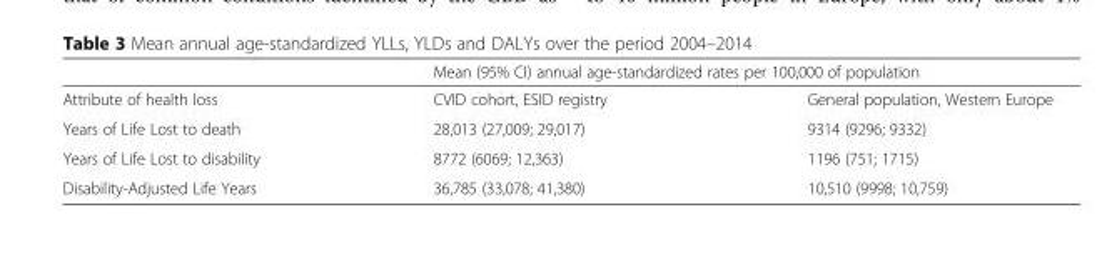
<table><thead><tr><td rowspan="2">Attribute of health loss</td><td colspan="2">Mean (95% CI) annual age-standardized rates per 100,000 of population</td></tr><tr><td>CVID cohort, ESID registry</td><td>General population, Western Europe</td></tr></thead><tbody><tr><td>Years of Life Lost to death</td><td>28,013 (27,009; 29,017)</td><td>9314 (9296; 9332)</td></tr><tr><td>Years of Life Lost to disability</td><td>8772 (6069; 12,363)</td><td>1196 (751; 1715)</td></tr><tr><td>Disability-Adjusted Life Years</td><td>36,785 (33,078; 41,380)</td><td>10,510 (9998; 10,759)</td></tr></tbody></table>